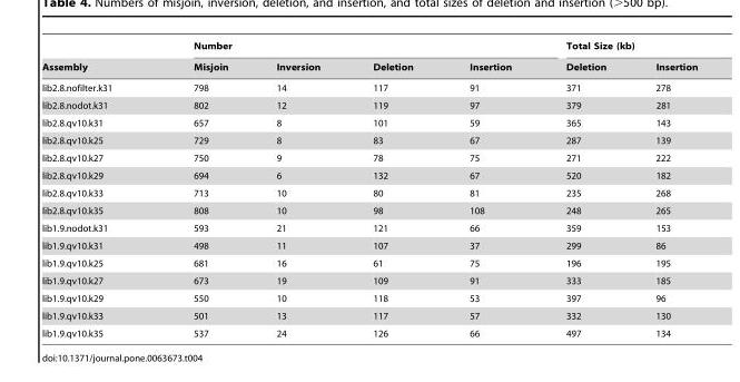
<table><thead><tr><td rowspan="2">Assembly</td><td colspan="4">Number</td><td colspan="2">Total Size (kb)</td></tr><tr><td>Misjoin</td><td>Inversion</td><td>Deletion</td><td>Insertion</td><td>Deletion</td><td>Insertion</td></tr></thead><tbody><tr><td>lib2.8.nofilter.k31</td><td>798</td><td>14</td><td>117</td><td>91</td><td>371</td><td>278</td></tr><tr><td>lib2.8.nodot.k31</td><td>802</td><td>12</td><td>119</td><td>97</td><td>379</td><td>281</td></tr><tr><td>lib2.8.qv10.k31</td><td>657</td><td>8</td><td>101</td><td>59</td><td>365</td><td>143</td></tr><tr><td>lib2.8.qv10.k25</td><td>729</td><td>8</td><td>83</td><td>67</td><td>287</td><td>139</td></tr><tr><td>lib2.8.qv10.k27</td><td>750</td><td>9</td><td>78</td><td>75</td><td>271</td><td>222</td></tr><tr><td>lib2.8.qv10.k29</td><td>694</td><td>6</td><td>132</td><td>67</td><td>520</td><td>182</td></tr><tr><td>lib2.8.qv10.k33</td><td>713</td><td>10</td><td>80</td><td>81</td><td>235</td><td>268</td></tr><tr><td>lib2.8.qv10.k35</td><td>808</td><td>10</td><td>98</td><td>108</td><td>248</td><td>265</td></tr><tr><td>lib1.9.nodot.k31</td><td>593</td><td>21</td><td>121</td><td>66</td><td>359</td><td>153</td></tr><tr><td>lib1.9.qv10.k31</td><td>498</td><td>11</td><td>107</td><td>37</td><td>299</td><td>86</td></tr><tr><td>lib1.9.qv10.k25</td><td>681</td><td>16</td><td>61</td><td>75</td><td>196</td><td>195</td></tr><tr><td>lib1.9.qv10.k27</td><td>673</td><td>19</td><td>109</td><td>91</td><td>333</td><td>185</td></tr><tr><td>lib1.9.qv10.k29</td><td>550</td><td>10</td><td>118</td><td>53</td><td>397</td><td>96</td></tr><tr><td>lib1.9.qv10.k33</td><td>501</td><td>13</td><td>117</td><td>57</td><td>332</td><td>130</td></tr><tr><td>lib1.9.qv10.k35</td><td>537</td><td>24</td><td>126</td><td>66</td><td>497</td><td>134</td></tr></tbody></table>